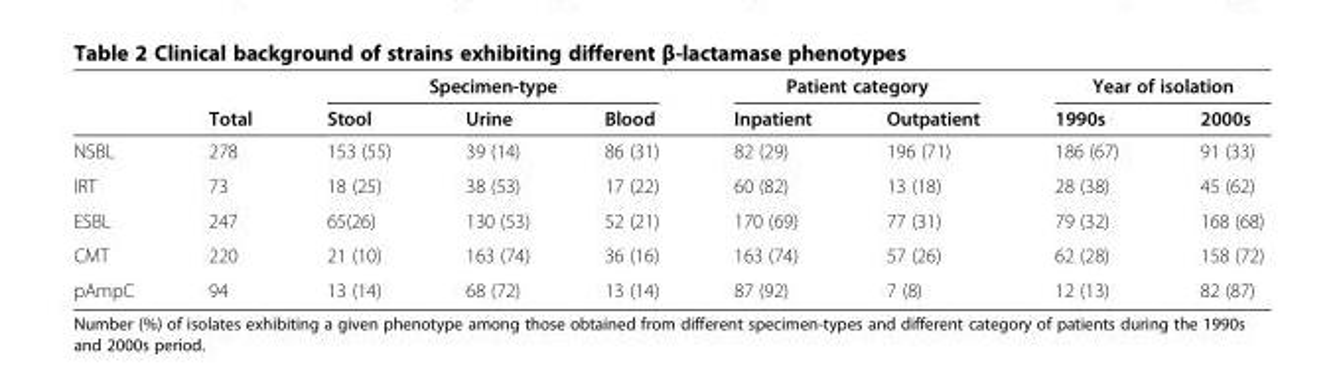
<table><thead><tr><td rowspan="2"></td><td rowspan="2">Total</td><td colspan="3">Specimen-type</td><td colspan="2">Patient category</td><td colspan="2">Year of isolation</td></tr><tr><td>Stool</td><td>Urine</td><td>Blood</td><td>Inpatient</td><td>Outpatient</td><td>1990s</td><td>2000s</td></tr></thead><tbody><tr><td>NSBL</td><td>278</td><td>153 (55)</td><td>39 (14)</td><td>86 (31)</td><td>82 (29)</td><td>196 (71)</td><td>186 (67)</td><td>91 (33)</td></tr><tr><td>IRT</td><td>73</td><td>18 (25)</td><td>38 (53)</td><td>17 (22)</td><td>60 (82)</td><td>13 (18)</td><td>28 (38)</td><td>45 (62)</td></tr><tr><td>ESBL</td><td>247</td><td>65(26)</td><td>130 (53)</td><td>52 (21)</td><td>170 (69)</td><td>77 (31)</td><td>79 (32)</td><td>168 (68)</td></tr><tr><td>CMT</td><td>220</td><td>21 (10)</td><td>163 (74)</td><td>36 (16)</td><td>163 (74)</td><td>57 (26)</td><td>62 (28)</td><td>158 (72)</td></tr><tr><td>pAmpC</td><td>94</td><td>13 (14)</td><td>68 (72)</td><td>13 (14)</td><td>87 (92)</td><td>7 (8)</td><td>12 (13)</td><td>82 (87)</td></tr></tbody></table>